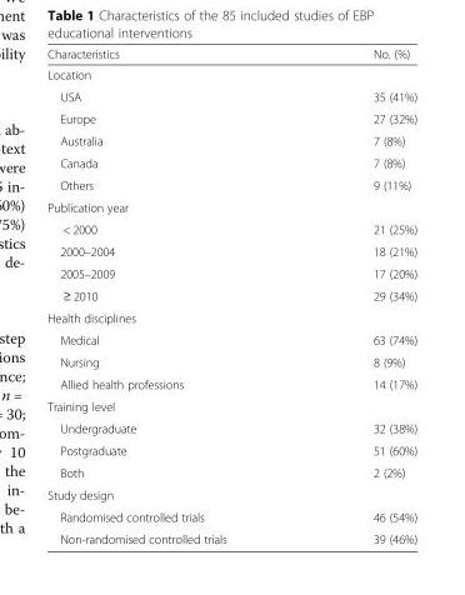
<table><thead><tr><td>Characteristics</td><td>No. (%)</td></tr></thead><tbody><tr><td colspan="2">Location</td></tr><tr><td>USA</td><td>35 (41%)</td></tr><tr><td>Europe</td><td>27 (32%)</td></tr><tr><td>Australia</td><td>7 (8%)</td></tr><tr><td>Canada</td><td>7 (8%)</td></tr><tr><td>Others</td><td>9 (11%)</td></tr><tr><td colspan="2">Publication year</td></tr><tr><td>&lt; 2000</td><td>21 (25%)</td></tr><tr><td>2000–2004</td><td>18 (21%)</td></tr><tr><td>2005–2009</td><td>17 (20%)</td></tr><tr><td>≥ 2010</td><td>29 (34%)</td></tr><tr><td colspan="2">Health disciplines</td></tr><tr><td>Medical</td><td>63 (74%)</td></tr><tr><td>Nursing</td><td>8 (9%)</td></tr><tr><td>Allied health professions</td><td>14 (17%)</td></tr><tr><td colspan="2">Training level</td></tr><tr><td>Undergraduate</td><td>32 (38%)</td></tr><tr><td>Postgraduate</td><td>51 (60%)</td></tr><tr><td>Both</td><td>2 (2%)</td></tr><tr><td colspan="2">Study design</td></tr><tr><td>Randomised controlled trials</td><td>46 (54%)</td></tr><tr><td>Non-randomised controlled trials</td><td>39 (46%)</td></tr></tbody></table>